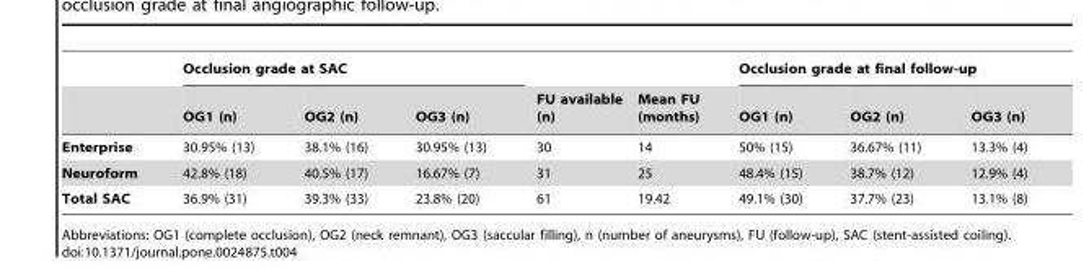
<table><thead><tr><td rowspan="2"></td><td colspan="3">Occlusion grade at SAC</td><td rowspan="2">FU available (n)</td><td rowspan="2">Mean FU (months)</td><td colspan="3">Occlusion grade at final follow-up</td></tr><tr><td>OG1 (n)</td><td>OG2 (n)</td><td>OG3 (n)</td><td>OG1 (n)</td><td>OG2 (n)</td><td>OG3 (n)</td></tr></thead><tbody><tr><td>Enterprise</td><td>30.95% (13)</td><td>38.1% (16)</td><td>30.95% (13)</td><td>30</td><td>14</td><td>50% (15)</td><td>36.67% (11)</td><td>13.3% (4)</td></tr><tr><td>Neuroform</td><td>42.8% (18)</td><td>40.5% (17)</td><td>16.67% (7)</td><td>31</td><td>25</td><td>48.4% (15)</td><td>38.7% (12)</td><td>12.9% (4)</td></tr><tr><td>Total SAC</td><td>36.9% (31)</td><td>39.3% (33)</td><td>23.8% (20)</td><td>61</td><td>19.42</td><td>49.1% (30)</td><td>37.7% (23)</td><td>13.1% (8)</td></tr></tbody></table>